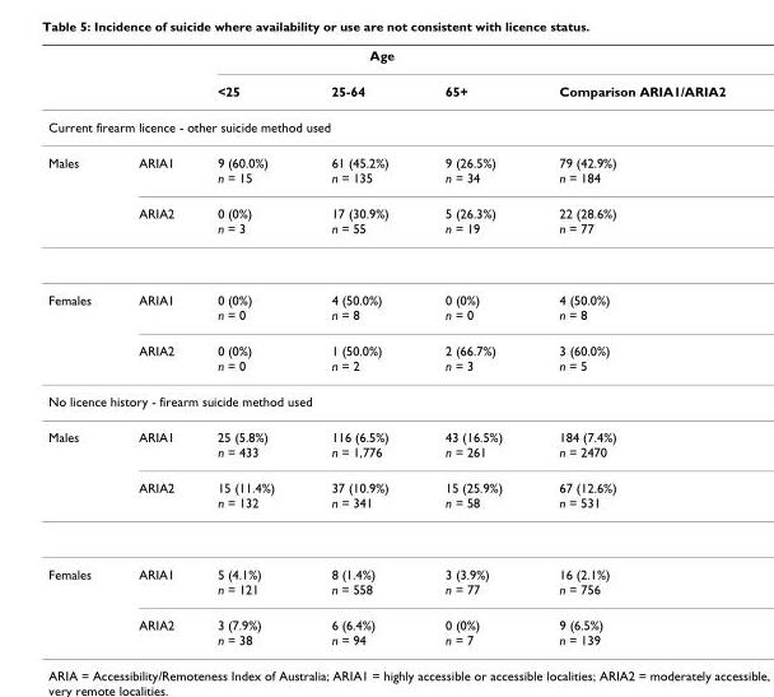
<table><thead><tr><td rowspan="2"></td><td rowspan="2"></td><td colspan="3">Age</td><td rowspan="2">Comparison ARIA1/ARIA2</td></tr><tr><td>&lt;25</td><td>25-64</td><td>65+</td></tr></thead><tbody><tr><td colspan="6">Current firearm licence - other suicide method used</td></tr><tr><td rowspan="2">Males</td><td>ARIA1</td><td>9 (60.0%) n = 15</td><td>61 (45.2%) n = 135</td><td>9 (26.5%) n = 34</td><td>79 (42.9%) n = 184</td></tr><tr><td>ARIA2</td><td>0 (0%) n = 3</td><td>17 (30.9%) n = 55</td><td>5 (26.3%) n = 19</td><td>22 (28.6%) n = 77</td></tr><tr><td rowspan="2">Females</td><td>ARIA1</td><td>0 (0%) n = 0</td><td>4 (50.0%) n = 8</td><td>0 (0%) n = 0</td><td>4 (50.0%) n = 8</td></tr><tr><td>ARIA2</td><td>0 (0%) n = 0</td><td>1 (50.0%) n = 2</td><td>2 (66.7%) n = 3</td><td>3 (60.0%) n = 5</td></tr><tr><td colspan="6">No licence history - firearm suicide method used</td></tr><tr><td rowspan="2">Males</td><td>ARIA1</td><td>25 (5.8%) n = 433</td><td>116 (6.5%) n = 1,776</td><td>43 (16.5%) n = 261</td><td>184 (7.4%) n = 2470</td></tr><tr><td>ARIA2</td><td>15 (11.4%) n = 132</td><td>37 (10.9%) n = 341</td><td>15 (25.9%) n = 58</td><td>67 (12.6%) n = 531</td></tr><tr><td rowspan="2">Females</td><td>ARIA1</td><td>5 (4.1%) n = 121</td><td>8 (1.4%) n = 558</td><td>3 (3.9%) n = 77</td><td>16 (2.1%) n = 756</td></tr><tr><td>ARIA2</td><td>3 (7.9%) n = 38</td><td>6 (6.4%) n = 94</td><td>0 (0%) n = 7</td><td>9 (6.5%) n = 139</td></tr></tbody></table>